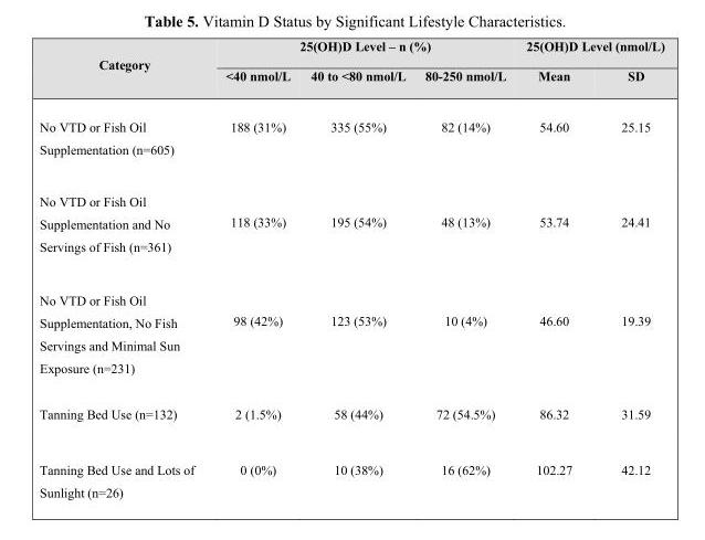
<table><thead><tr><td rowspan="2">Category</td><td colspan="3">25(OH)D Level – n (%)</td><td colspan="2">25(OH)D Level (nmol/L)</td></tr><tr><td>&lt;40 nmol/L</td><td>40 to &lt;80 nmol/L</td><td>80-250 nmol/L</td><td>Mean</td><td>SD</td></tr></thead><tbody><tr><td>No VTD or Fish Oil Supplementation (n=605)</td><td>188 (31%)</td><td>335 (55%)</td><td>82 (14%)</td><td>54.60</td><td>25.15</td></tr><tr><td>No VTD or Fish Oil Supplementation and No Servings of Fish (n=361)</td><td>118 (33%)</td><td>195 (54%)</td><td>48 (13%)</td><td>53.74</td><td>24.41</td></tr><tr><td>No VTD or Fish Oil Supplementation, No Fish Servings and Minimal Sun Exposure (n=231)</td><td>98 (42%)</td><td>123 (53%)</td><td>10 (4%)</td><td>46.60</td><td>19.39</td></tr><tr><td>Tanning Bed Use (n=132)</td><td>2 (1.5%)</td><td>58 (44%)</td><td>72 (54.5%)</td><td>86.32</td><td>31.59</td></tr><tr><td>Tanning Bed Use and Lots of Sunlight (n=26)</td><td>0 (0%)</td><td>10 (38%)</td><td>16 (62%)</td><td>102.27</td><td>42.12</td></tr></tbody></table>